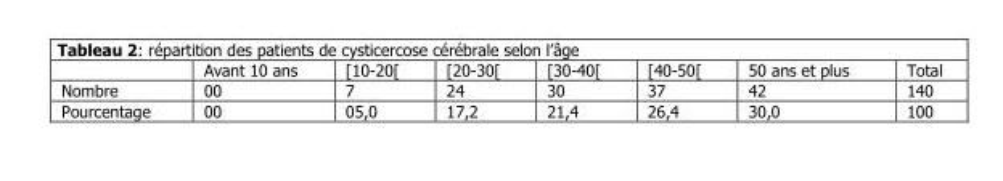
<table><thead><tr><td></td><td>Avant 10 ans</td><td>[10-20[</td><td>[20-30[</td><td>[30-40[</td><td>[40-50[</td><td>50 ans et plus</td><td>Total</td></tr></thead><tbody><tr><td>Nombre</td><td>00</td><td>7</td><td>24</td><td>30</td><td>37</td><td>42</td><td>140</td></tr><tr><td>Pourcentage</td><td>00</td><td>05,0</td><td>17,2</td><td>21,4</td><td>26,4</td><td>30,0</td><td>100</td></tr></tbody></table>